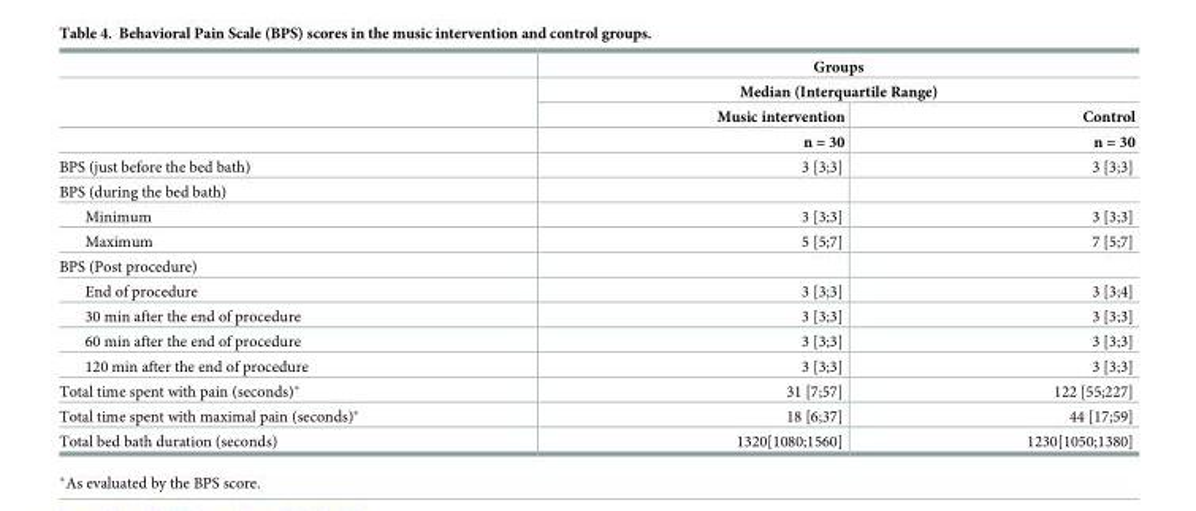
<table><thead><tr><td rowspan="4"></td><td rowspan="2" colspan="2">Groups Median (Interquartile Range)</td></tr><tr></tr><tr><td rowspan="2">Music intervention n = 30</td><td rowspan="2">Control n = 30</td></tr><tr></tr></thead><tbody><tr><td>BPS (just before the bed bath)</td><td>3 [3;3]</td><td>3 [3;3]</td></tr><tr><td colspan="3">BPS (during the bed bath)</td></tr><tr><td>Minimum</td><td>3 [3;3]</td><td>3 [3;3]</td></tr><tr><td>Maximum</td><td>5 [5;7]</td><td>7 [5;7]</td></tr><tr><td colspan="3">BPS (Post procedure)</td></tr><tr><td>End of procedure</td><td>3 [3;3]</td><td>3 [3;4]</td></tr><tr><td>30 min after the end of procedure</td><td>3 [3;3]</td><td>3 [3;3]</td></tr><tr><td>60 min after the end of procedure</td><td>3 [3;3]</td><td>3 [3;3]</td></tr><tr><td>120 min after the end of procedure</td><td>3 [3;3]</td><td>3 [3;3]</td></tr><tr><td>Total time spent with pain (seconds)*</td><td>31 [7;57]</td><td>122 [55;227]</td></tr><tr><td>Total time spent with maximal pain (seconds)*</td><td>18 [6;37]</td><td>44 [17;59]</td></tr><tr><td>Total bed bath duration (seconds)</td><td>1320[1080;1560]</td><td>1230[1050;1380]</td></tr></tbody></table>